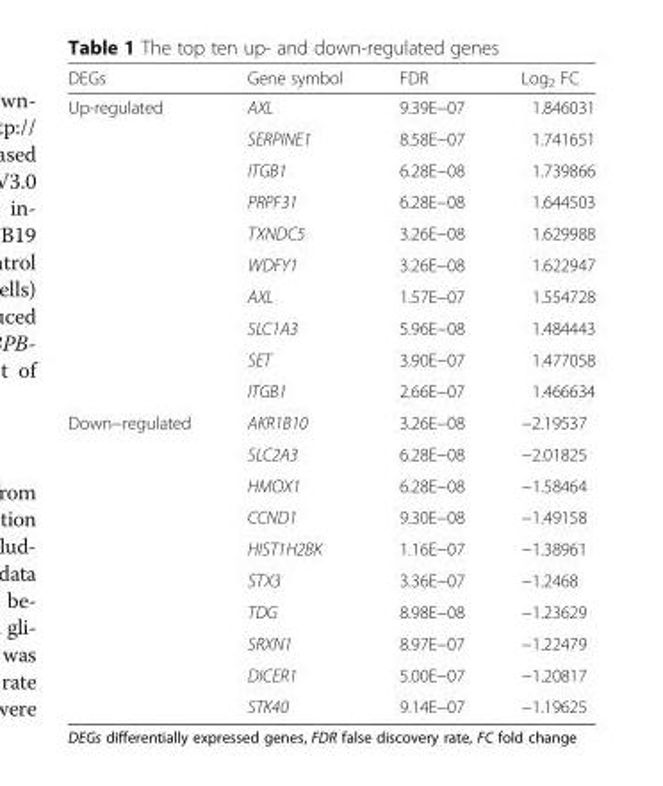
<table><thead><tr><td>DEGs</td><td>Gene symbol</td><td>FDR</td><td>Log<sub>2</sub> FC</td></tr></thead><tbody><tr><td rowspan="10">Up-regulated</td><td>AXL</td><td>9.39E−07</td><td>1.846031</td></tr><tr><td>SERPINE1</td><td>8.58E−07</td><td>1.741651</td></tr><tr><td>ITGB1</td><td>6.28E−08</td><td>1.739866</td></tr><tr><td>PRPF31</td><td>6.28E−08</td><td>1.644503</td></tr><tr><td>TXNDC5</td><td>3.26E−08</td><td>1.629988</td></tr><tr><td>WDFY1</td><td>3.26E−08</td><td>1.622947</td></tr><tr><td>AXL</td><td>1.57E−07</td><td>1.554728</td></tr><tr><td>SLC1A3</td><td>5.96E−08</td><td>1.484443</td></tr><tr><td>SET</td><td>3.90E−07</td><td>1.477058</td></tr><tr><td>ITGB1</td><td>2.66E−07</td><td>1.466634</td></tr><tr><td rowspan="10">Down−regulated</td><td>AKR1B10</td><td>3.26E−08</td><td>−2.19537</td></tr><tr><td>SLC2A3</td><td>6.28E−08</td><td>−2.01825</td></tr><tr><td>HMOX1</td><td>6.28E−08</td><td>−1.58464</td></tr><tr><td>CCND1</td><td>9.30E−08</td><td>−1.49158</td></tr><tr><td>HIST1H2BK</td><td>1.16E−07</td><td>−1.38961</td></tr><tr><td>STX3</td><td>3.36E−07</td><td>−1.2468</td></tr><tr><td>TDG</td><td>8.98E−08</td><td>−1.23629</td></tr><tr><td>SRXN1</td><td>8.97E−07</td><td>−1.22479</td></tr><tr><td>DICER1</td><td>5.00E−07</td><td>−1.20817</td></tr><tr><td>STK40</td><td>9.14E−07</td><td>−1.19625</td></tr></tbody></table>